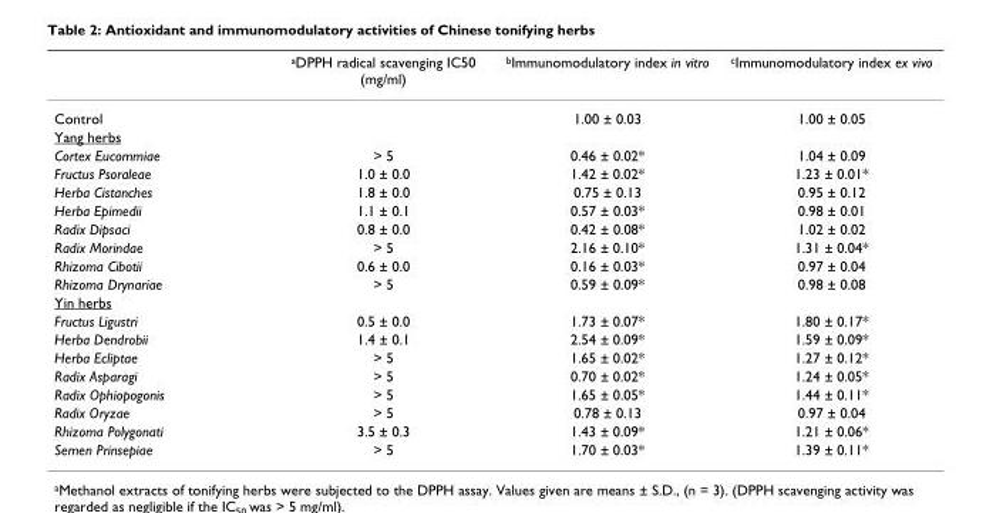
<table><thead><tr><td></td><td><sup>a</sup>DPPH radical scavenging IC50 (mg/ml)</td><td><sup>b</sup>Immunomodulatory index in vitro</td><td><sup>c</sup>Immunomodulatory index ex vivo</td></tr></thead><tbody><tr><td>Control</td><td></td><td>1.00 ± 0.03</td><td>1.00 ± 0.05</td></tr><tr><td colspan="4">Yang herbs</td></tr><tr><td>Cortex Eucommiae</td><td>&gt; 5</td><td>0.46 ± 0.02*</td><td>1.04 ± 0.09</td></tr><tr><td>Fructus Psoraleae</td><td>1.0 ± 0.0</td><td>1.42 ± 0.02*</td><td>1.23 ± 0.01*</td></tr><tr><td>Herba Cistanches</td><td>1.8 ± 0.0</td><td>0.75 ± 0.13</td><td>0.95 ± 0.12</td></tr><tr><td>Herba Epimedii</td><td>1.1 ± 0.1</td><td>0.57 ± 0.03*</td><td>0.98 ± 0.01</td></tr><tr><td>Radix Dipsaci</td><td>0.8 ± 0.0</td><td>0.42 ± 0.08*</td><td>1.02 ± 0.02</td></tr><tr><td>Radix Morindae</td><td>&gt; 5</td><td>2.16 ± 0.10*</td><td>1.31 ± 0.04*</td></tr><tr><td>Rhizoma Cibotii</td><td>0.6 ± 0.0</td><td>0.16 ± 0.03*</td><td>0.97 ± 0.04</td></tr><tr><td>Rhizoma Drynariae</td><td>&gt; 5</td><td>0.59 ± 0.09*</td><td>0.98 ± 0.08</td></tr><tr><td colspan="4">Yin herbs</td></tr><tr><td>Fructus Ligustri</td><td>0.5 ± 0.0</td><td>1.73 ± 0.07*</td><td>1.80 ± 0.17*</td></tr><tr><td>Herba Dendrobii</td><td>1.4 ± 0.1</td><td>2.54 ± 0.09*</td><td>1.59 ± 0.09*</td></tr><tr><td>Herba Ecliptae</td><td>&gt; 5</td><td>1.65 ± 0.02*</td><td>1.27 ± 0.12*</td></tr><tr><td>Radix Asparagi</td><td>&gt; 5</td><td>0.70 ± 0.02*</td><td>1.24 ± 0.05*</td></tr><tr><td>Radix Ophiopogonis</td><td>&gt; 5</td><td>1.65 ± 0.05*</td><td>1.44 ± 0.11*</td></tr><tr><td>Radix Oryzae</td><td>&gt; 5</td><td>0.78 ± 0.13</td><td>0.97 ± 0.04</td></tr><tr><td>Rhizoma Polygonati</td><td>3.5 ± 0.3</td><td>1.43 ± 0.09*</td><td>1.21 ± 0.06*</td></tr><tr><td>Semen Prinsepiae</td><td>&gt; 5</td><td>1.70 ± 0.03*</td><td>1.39 ± 0.11*</td></tr></tbody></table>